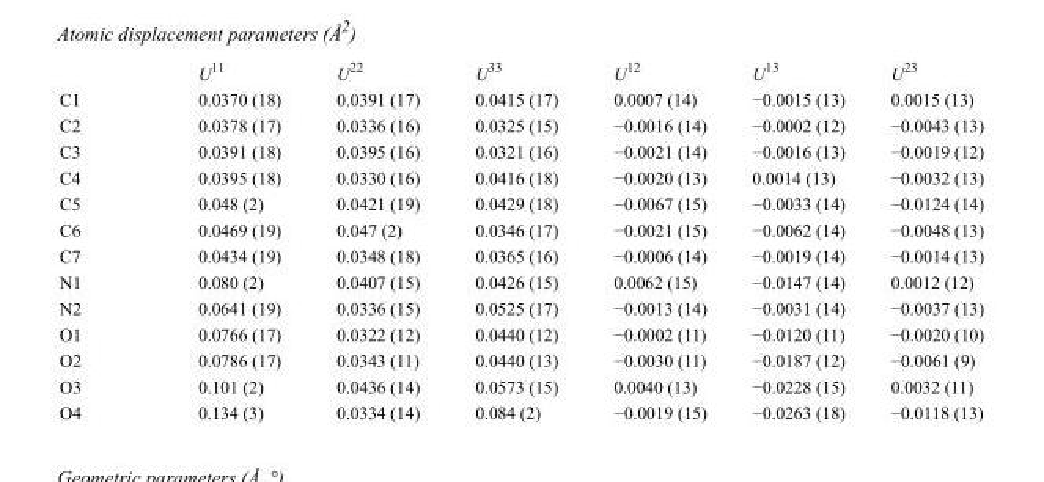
<table><thead><tr><td></td><td>U<sup>11</sup></td><td>U<sup>22</sup></td><td>U<sup>33</sup></td><td>U<sup>12</sup></td><td>U<sup>13</sup></td><td>U<sup>23</sup></td></tr></thead><tbody><tr><td>C1</td><td>0.0370 (18)</td><td>0.0391 (17)</td><td>0.0415 (17)</td><td>0.0007 (14)</td><td>−0.0015 (13)</td><td>0.0015 (13)</td></tr><tr><td>C2</td><td>0.0378 (17)</td><td>0.0336 (16)</td><td>0.0325 (15)</td><td>−0.0016 (14)</td><td>−0.0002 (12)</td><td>−0.0043 (13)</td></tr><tr><td>C3</td><td>0.0391 (18)</td><td>0.0395 (16)</td><td>0.0321 (16)</td><td>−0.0021 (14)</td><td>−0.0016 (13)</td><td>−0.0019 (12)</td></tr><tr><td>C4</td><td>0.0395 (18)</td><td>0.0330 (16)</td><td>0.0416 (18)</td><td>−0.0020 (13)</td><td>0.0014 (13)</td><td>−0.0032 (13)</td></tr><tr><td>C5</td><td>0.048 (2)</td><td>0.0421 (19)</td><td>0.0429 (18)</td><td>−0.0067 (15)</td><td>−0.0033 (14)</td><td>−0.0124 (14)</td></tr><tr><td>C6</td><td>0.0469 (19)</td><td>0.047 (2)</td><td>0.0346 (17)</td><td>−0.0021 (15)</td><td>−0.0062 (14)</td><td>−0.0048 (13)</td></tr><tr><td>C7</td><td>0.0434 (19)</td><td>0.0348 (18)</td><td>0.0365 (16)</td><td>−0.0006 (14)</td><td>−0.0019 (14)</td><td>−0.0014 (13)</td></tr><tr><td>N1</td><td>0.080 (2)</td><td>0.0407 (15)</td><td>0.0426 (15)</td><td>0.0062 (15)</td><td>−0.0147 (14)</td><td>0.0012 (12)</td></tr><tr><td>N2</td><td>0.0641 (19)</td><td>0.0336 (15)</td><td>0.0525 (17)</td><td>−0.0013 (14)</td><td>−0.0031 (14)</td><td>−0.0037 (13)</td></tr><tr><td>O1</td><td>0.0766 (17)</td><td>0.0322 (12)</td><td>0.0440 (12)</td><td>−0.0002 (11)</td><td>−0.0120 (11)</td><td>−0.0020 (10)</td></tr><tr><td>O2</td><td>0.0786 (17)</td><td>0.0343 (11)</td><td>0.0440 (13)</td><td>−0.0030 (11)</td><td>−0.0187 (12)</td><td>−0.0061 (9)</td></tr><tr><td>O3</td><td>0.101 (2)</td><td>0.0436 (14)</td><td>0.0573 (15)</td><td>0.0040 (13)</td><td>−0.0228 (15)</td><td>0.0032 (11)</td></tr><tr><td>O4</td><td>0.134 (3)</td><td>0.0334 (14)</td><td>0.084 (2)</td><td>−0.0019 (15)</td><td>−0.0263 (18)</td><td>−0.0118 (13)</td></tr></tbody></table>